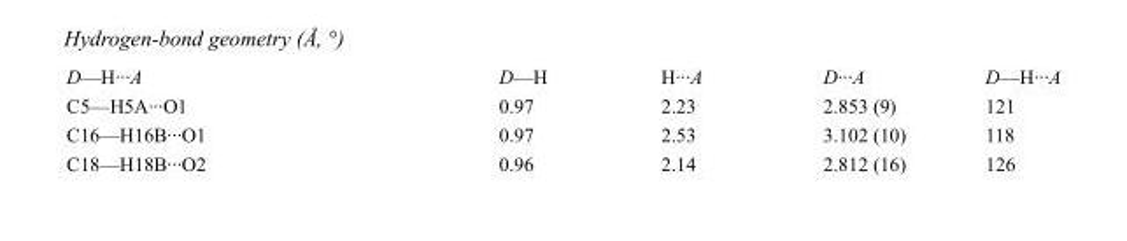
<table><tbody><tr><td>D—H···A</td><td>D—H</td><td>H···A</td><td>D···A</td><td>D—H···A</td></tr><tr><td>C5—H5A···O1</td><td>0.97</td><td>2.23</td><td>2.853 (9)</td><td>121</td></tr><tr><td>C16—H16B···O1</td><td>0.97</td><td>2.53</td><td>3.102 (10)</td><td>118</td></tr><tr><td>C18—H18B···O2</td><td>0.96</td><td>2.14</td><td>2.812 (16)</td><td>126</td></tr></tbody></table>